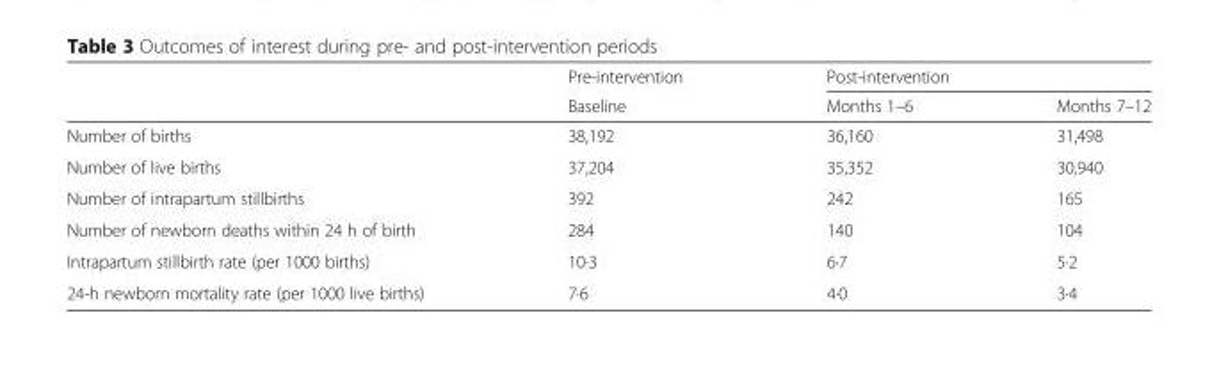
<table><thead><tr><td rowspan="2"></td><td rowspan="2">Pre-intervention Baseline</td><td colspan="2">Post-intervention</td></tr><tr><td>Months 1–6</td><td>Months 7–12</td></tr></thead><tbody><tr><td>Number of births</td><td>38,192</td><td>36,160</td><td>31,498</td></tr><tr><td>Number of live births</td><td>37,204</td><td>35,352</td><td>30,940</td></tr><tr><td>Number of intrapartum stillbirths</td><td>392</td><td>242</td><td>165</td></tr><tr><td>Number of newborn deaths within 24 h of birth</td><td>284</td><td>140</td><td>104</td></tr><tr><td>Intrapartum stillbirth rate (per 1000 births)</td><td>10·3</td><td>6·7</td><td>5·2</td></tr><tr><td>24-h newborn mortality rate (per 1000 live births)</td><td>7·6</td><td>4·0</td><td>3·4</td></tr></tbody></table>